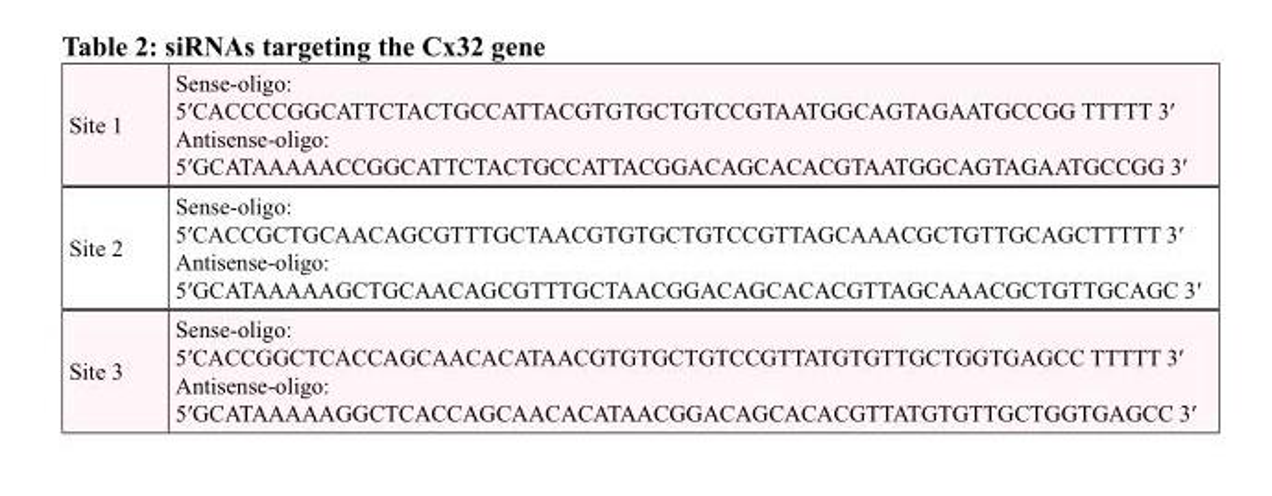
<table><tbody><tr><td>Site 1</td><td>Sense-oligo: 5′CACCCCGGCATTCTACTGCCATTACGTGTGCTGTCCGTAATGGCAGTAGAATGCCGG TTTTT 3′ Antisense-oligo: 5′GCATAAAAACCGGCATTCTACTGCCATTACGGACAGCACACGTAATGGCAGTAGAATGCCGG 3′</td></tr><tr><td>Site 2</td><td>Sense-oligo: 5′CACCGCTGCAACAGCGTTTGCTAACGTGTGCTGTCCGTTAGCAAACGCTGTTGCAGCTTTTT 3′ Antisense-oligo: 5′GCATAAAAAGCTGCAACAGCGTTTGCTAACGGACAGCACACGTTAGCAAACGCTGTTGCAGC 3′</td></tr><tr><td>Site 3</td><td>Sense-oligo: 5′CACCGGCTCACCAGCAACACATAACGTGTGCTGTCCGTTATGTGTTGCTGGTGAGCC TTTTT 3′ Antisense-oligo: 5′GCATAAAAAGGCTCACCAGCAACACATAACGGACAGCACACGTTATGTGTTGCTGGTGAGCC 3′</td></tr></tbody></table>